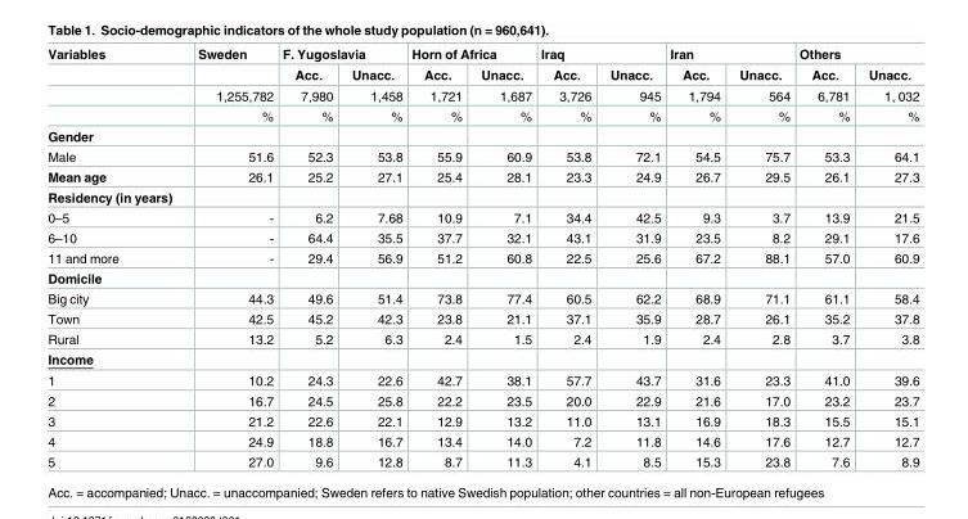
<table><thead><tr><td rowspan="2">Variables</td><td rowspan="2">Sweden</td><td colspan="2">F. Yugoslavia</td><td colspan="2">Horn of Africa</td><td colspan="2">Iraq</td><td colspan="2">Iran</td><td colspan="2">Others</td></tr><tr><td>Acc.</td><td>Unacc.</td><td>Acc.</td><td>Unacc.</td><td>Acc.</td><td>Unacc.</td><td>Acc.</td><td>Unacc.</td><td>Acc.</td><td>Unacc.</td></tr></thead><tbody><tr><td></td><td>1,255,782</td><td>7,980</td><td>1,458</td><td>1,721</td><td>1,687</td><td>3,726</td><td>945</td><td>1,794</td><td>564</td><td>6,781</td><td>1, 032</td></tr><tr><td></td><td>%</td><td>%</td><td>%</td><td>%</td><td>%</td><td>%</td><td>%</td><td>%</td><td>%</td><td>%</td><td>%</td></tr><tr><td colspan="12">Gender</td></tr><tr><td>Male</td><td>51.6</td><td>52.3</td><td>53.8</td><td>55.9</td><td>60.9</td><td>53.8</td><td>72.1</td><td>54.5</td><td>75.7</td><td>53.3</td><td>64.1</td></tr><tr><td>Mean age</td><td>26.1</td><td>25.2</td><td>27.1</td><td>25.4</td><td>28.1</td><td>23.3</td><td>24.9</td><td>26.7</td><td>29.5</td><td>26.1</td><td>27.3</td></tr><tr><td colspan="12">Residency (in years)</td></tr><tr><td>0–5</td><td>-</td><td>6.2</td><td>7.68</td><td>10.9</td><td>7.1</td><td>34.4</td><td>42.5</td><td>9.3</td><td>3.7</td><td>13.9</td><td>21.5</td></tr><tr><td>6–10</td><td>-</td><td>64.4</td><td>35.5</td><td>37.7</td><td>32.1</td><td>43.1</td><td>31.9</td><td>23.5</td><td>8.2</td><td>29.1</td><td>17.6</td></tr><tr><td>11 and more</td><td>-</td><td>29.4</td><td>56.9</td><td>51.2</td><td>60.8</td><td>22.5</td><td>25.6</td><td>67.2</td><td>88.1</td><td>57.0</td><td>60.9</td></tr><tr><td colspan="12">Domicile</td></tr><tr><td>Big city</td><td>44.3</td><td>49.6</td><td>51.4</td><td>73.8</td><td>77.4</td><td>60.5</td><td>62.2</td><td>68.9</td><td>71.1</td><td>61.1</td><td>58.4</td></tr><tr><td>Town</td><td>42.5</td><td>45.2</td><td>42.3</td><td>23.8</td><td>21.1</td><td>37.1</td><td>35.9</td><td>28.7</td><td>26.1</td><td>35.2</td><td>37.8</td></tr><tr><td>Rural</td><td>13.2</td><td>5.2</td><td>6.3</td><td>2.4</td><td>1.5</td><td>2.4</td><td>1.9</td><td>2.4</td><td>2.8</td><td>3.7</td><td>3.8</td></tr><tr><td colspan="12">Income</td></tr><tr><td>1</td><td>10.2</td><td>24.3</td><td>22.6</td><td>42.7</td><td>38.1</td><td>57.7</td><td>43.7</td><td>31.6</td><td>23.3</td><td>41.0</td><td>39.6</td></tr><tr><td>2</td><td>16.7</td><td>24.5</td><td>25.8</td><td>22.2</td><td>23.5</td><td>20.0</td><td>22.9</td><td>21.6</td><td>17.0</td><td>23.2</td><td>23.7</td></tr><tr><td>3</td><td>21.2</td><td>22.6</td><td>22.1</td><td>12.9</td><td>13.2</td><td>11.0</td><td>13.1</td><td>16.9</td><td>18.3</td><td>15.5</td><td>15.1</td></tr><tr><td>4</td><td>24.9</td><td>18.8</td><td>16.7</td><td>13.4</td><td>14.0</td><td>7.2</td><td>11.8</td><td>14.6</td><td>17.6</td><td>12.7</td><td>12.7</td></tr><tr><td>5</td><td>27.0</td><td>9.6</td><td>12.8</td><td>8.7</td><td>11.3</td><td>4.1</td><td>8.5</td><td>15.3</td><td>23.8</td><td>7.6</td><td>8.9</td></tr></tbody></table>